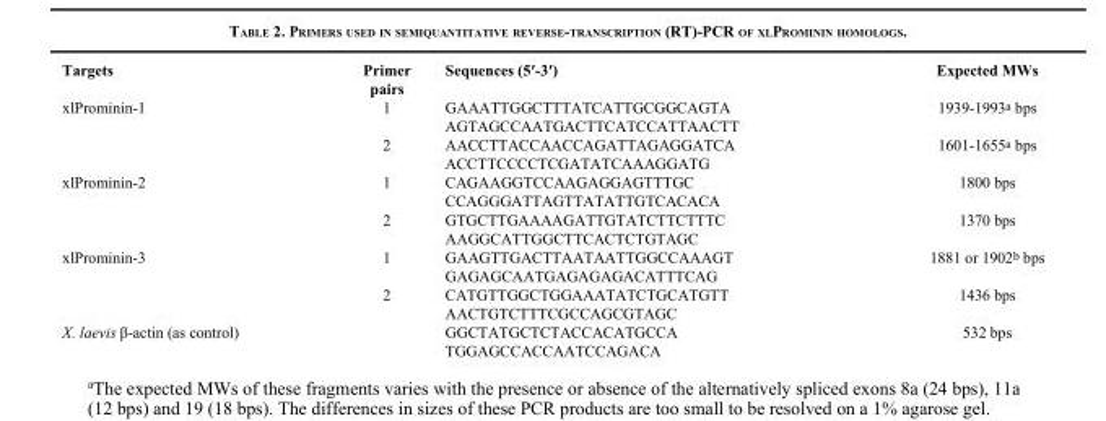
<table><thead><tr><td>Targets</td><td>Primer pairs</td><td>Sequences (5′-3′)</td><td>Expected MWs</td></tr></thead><tbody><tr><td rowspan="4">xlProminin-1</td><td>1</td><td>GAAATTGGCTTTATCATTGCGGCAGTA</td><td>1939-1993<sup>a</sup> bps</td></tr><tr><td></td><td>AGTAGCCAATGACTTCATCCATTAACTT</td><td></td></tr><tr><td>2</td><td>AACCTTACCAACCAGATTAGAGGATCA</td><td>1601-1655<sup>a</sup> bps</td></tr><tr><td></td><td>ACCTTCCCCTCGATATCAAAGGATG</td><td></td></tr><tr><td rowspan="4">xlProminin-2</td><td>1</td><td>CAGAAGGTCCAAGAGGAGTTTGC</td><td>1800 bps</td></tr><tr><td></td><td>CCAGGGATTAGTTATATTGTCACACA</td><td></td></tr><tr><td>2</td><td>GTGCTTGAAAAGATTGTATCTTCTTTC</td><td>1370 bps</td></tr><tr><td></td><td>AAGGCATTGGCTTCACTCTGTAGC</td><td></td></tr><tr><td rowspan="4">xlProminin-3</td><td>1</td><td>GAAGTTGACTTAATAATTGGCCAAAGT</td><td>1881 or 1902<sup>b</sup> bps</td></tr><tr><td></td><td>GAGAGCAATGAGAGAGACATTTCAG</td><td></td></tr><tr><td>2</td><td>CATGTTGGCTGGAAATATCTGCATGTT</td><td>1436 bps</td></tr><tr><td></td><td>AACTGTCTTTCGCCAGCGTAGC</td><td></td></tr><tr><td rowspan="2">X. laevis β-actin (as control)</td><td></td><td>GGCTATGCTCTACCACATGCCA</td><td>532 bps</td></tr><tr><td></td><td>TGGAGCCACCAATCCAGACA</td><td></td></tr></tbody></table>